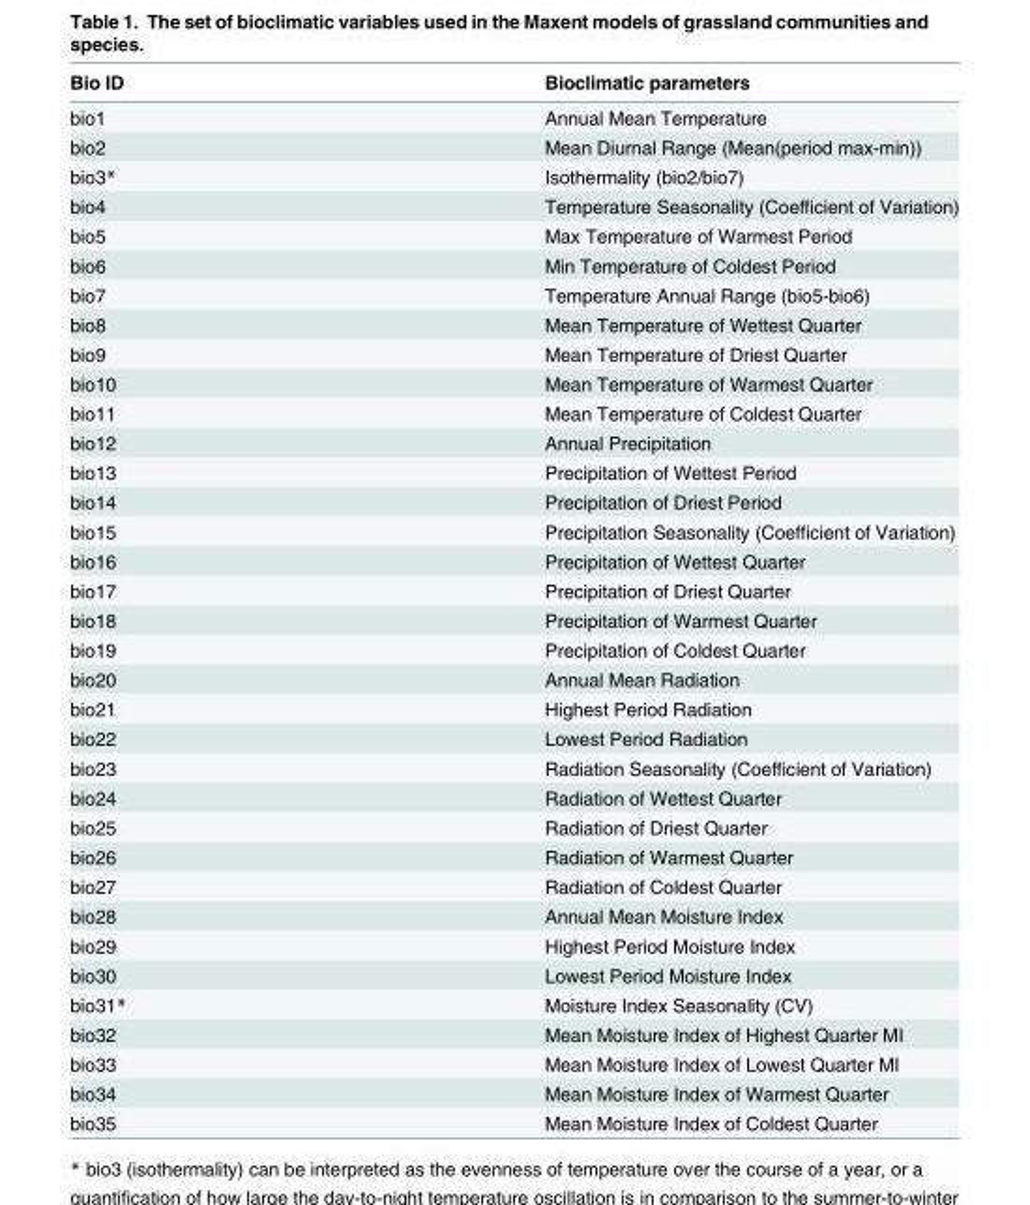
<table><thead><tr><td>Bio ID</td><td>Bioclimatic parameters</td></tr></thead><tbody><tr><td>bio1</td><td>Annual Mean Temperature</td></tr><tr><td>bio2</td><td>Mean Diurnal Range (Mean(period max-min))</td></tr><tr><td>bio3*</td><td>Isothermality (bio2/bio7)</td></tr><tr><td>bio4</td><td>Temperature Seasonality (Coefficient of Variation)</td></tr><tr><td>bio5</td><td>Max Temperature of Warmest Period</td></tr><tr><td>bio6</td><td>Min Temperature of Coldest Period</td></tr><tr><td>bio7</td><td>Temperature Annual Range (bio5-bio6)</td></tr><tr><td>bio8</td><td>Mean Temperature of Wettest Quarter</td></tr><tr><td>bio9</td><td>Mean Temperature of Driest Quarter</td></tr><tr><td>bio10</td><td>Mean Temperature of Warmest Quarter</td></tr><tr><td>bio11</td><td>Mean Temperature of Coldest Quarter</td></tr><tr><td>bio12</td><td>Annual Precipitation</td></tr><tr><td>bio13</td><td>Precipitation of Wettest Period</td></tr><tr><td>bio14</td><td>Precipitation of Driest Period</td></tr><tr><td>bio15</td><td>Precipitation Seasonality (Coefficient of Variation)</td></tr><tr><td>bio16</td><td>Precipitation of Wettest Quarter</td></tr><tr><td>bio17</td><td>Precipitation of Driest Quarter</td></tr><tr><td>bio18</td><td>Precipitation of Warmest Quarter</td></tr><tr><td>bio19</td><td>Precipitation of Coldest Quarter</td></tr><tr><td>bio20</td><td>Annual Mean Radiation</td></tr><tr><td>bio21</td><td>Highest Period Radiation</td></tr><tr><td>bio22</td><td>Lowest Period Radiation</td></tr><tr><td>bio23</td><td>Radiation Seasonality (Coefficient of Variation)</td></tr><tr><td>bio24</td><td>Radiation of Wettest Quarter</td></tr><tr><td>bio25</td><td>Radiation of Driest Quarter</td></tr><tr><td>bio26</td><td>Radiation of Warmest Quarter</td></tr><tr><td>bio27</td><td>Radiation of Coldest Quarter</td></tr><tr><td>bio28</td><td>Annual Mean Moisture Index</td></tr><tr><td>bio29</td><td>Highest Period Moisture Index</td></tr><tr><td>bio30</td><td>Lowest Period Moisture Index</td></tr><tr><td>bio31*</td><td>Moisture Index Seasonality (CV)</td></tr><tr><td>bio32</td><td>Mean Moisture Index of Highest Quarter MI</td></tr><tr><td>bio33</td><td>Mean Moisture Index of Lowest Quarter MI</td></tr><tr><td>bio34</td><td>Mean Moisture Index of Warmest Quarter</td></tr><tr><td>bio35</td><td>Mean Moisture Index of Coldest Quarter</td></tr></tbody></table>